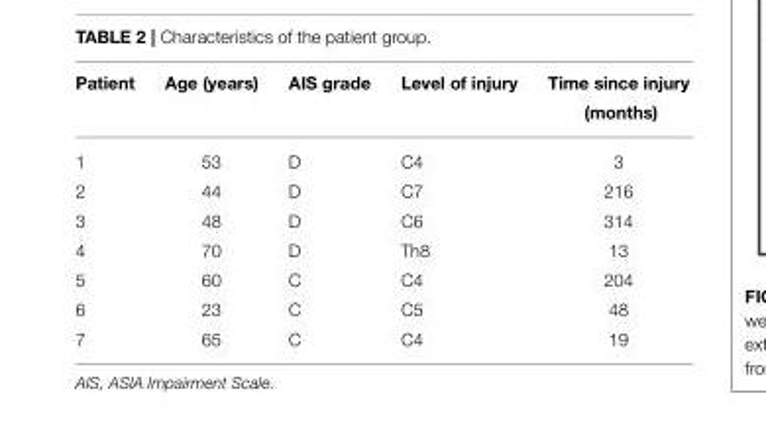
<table><thead><tr><td>Patient</td><td>Age (years)</td><td>AIS grade</td><td>Level of injury</td><td>Time since injury (months)</td></tr></thead><tbody><tr><td>1</td><td>53</td><td>D</td><td>C4</td><td>3</td></tr><tr><td>2</td><td>44</td><td>D</td><td>C7</td><td>216</td></tr><tr><td>3</td><td>48</td><td>D</td><td>C6</td><td>314</td></tr><tr><td>4</td><td>70</td><td>D</td><td>Th8</td><td>13</td></tr><tr><td>5</td><td>60</td><td>C</td><td>C4</td><td>204</td></tr><tr><td>6</td><td>23</td><td>C</td><td>C5</td><td>48</td></tr><tr><td>7</td><td>65</td><td>C</td><td>C4</td><td>19</td></tr></tbody></table>